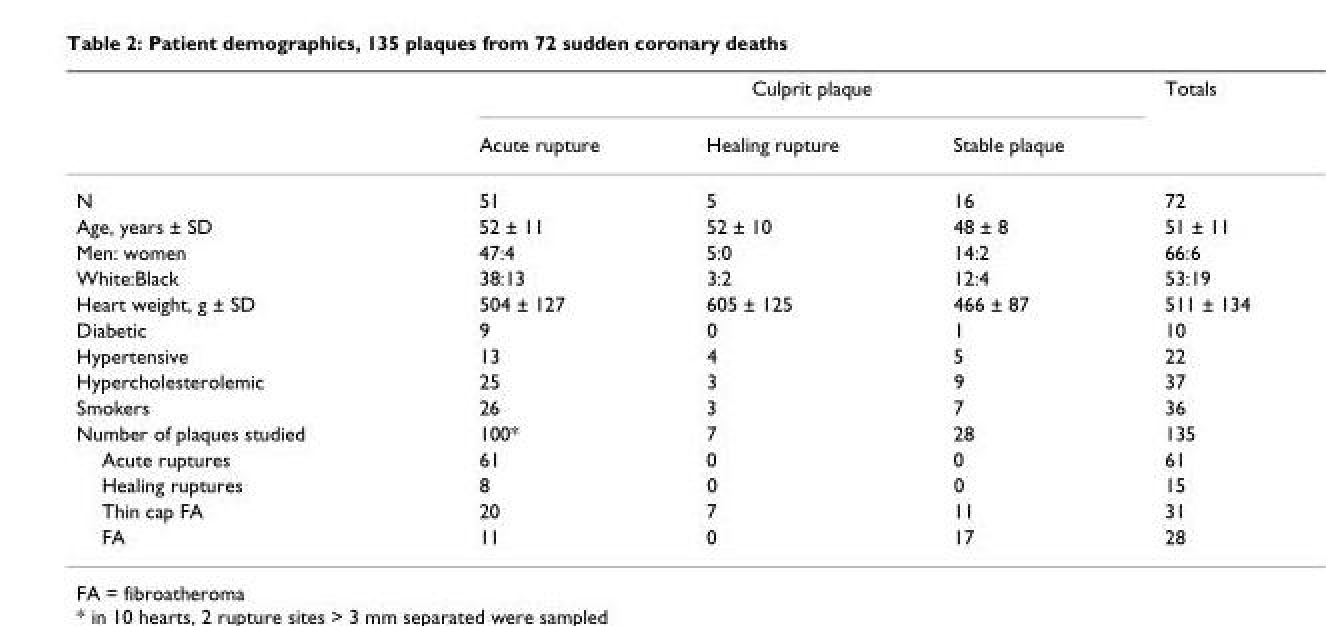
<table><thead><tr><td rowspan="2"></td><td colspan="3">Culprit plaque</td><td rowspan="2">Totals</td></tr><tr><td>Acute rupture</td><td>Healing rupture</td><td>Stable plaque</td></tr></thead><tbody><tr><td>N</td><td>51</td><td>5</td><td>16</td><td>72</td></tr><tr><td>Age, years ± SD</td><td>52 ± 11</td><td>52 ± 10</td><td>48 ± 8</td><td>51 ± 11</td></tr><tr><td>Men: women</td><td>47:4</td><td>5:0</td><td>14:2</td><td>66:6</td></tr><tr><td>White:Black</td><td>38:13</td><td>3:2</td><td>12:4</td><td>53:19</td></tr><tr><td>Heart weight, g ± SD</td><td>504 ± 127</td><td>605 ± 125</td><td>466 ± 87</td><td>511 ± 134</td></tr><tr><td>Diabetic</td><td>9</td><td>0</td><td>1</td><td>10</td></tr><tr><td>Hypertensive</td><td>13</td><td>4</td><td>5</td><td>22</td></tr><tr><td>Hypercholesterolemic</td><td>25</td><td>3</td><td>9</td><td>37</td></tr><tr><td>Smokers</td><td>26</td><td>3</td><td>7</td><td>36</td></tr><tr><td>Number of plaques studied</td><td>100*</td><td>7</td><td>28</td><td>135</td></tr><tr><td>Acute ruptures</td><td>61</td><td>0</td><td>0</td><td>61</td></tr><tr><td>Healing ruptures</td><td>8</td><td>0</td><td>0</td><td>15</td></tr><tr><td>Thin cap FA</td><td>20</td><td>7</td><td>11</td><td>31</td></tr><tr><td>FA</td><td>11</td><td>0</td><td>17</td><td>28</td></tr></tbody></table>